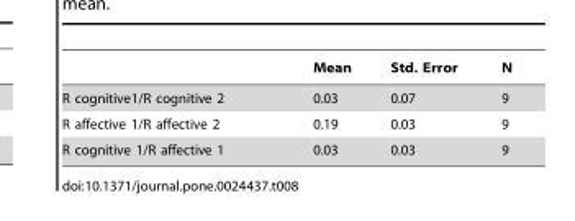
<table><thead><tr><td></td><td>Mean</td><td>Std. Error</td><td>N</td></tr></thead><tbody><tr><td>R cognitive1/R cognitive 2</td><td>0.03</td><td>0.07</td><td>9</td></tr><tr><td>R affective 1/R affective 2</td><td>0.19</td><td>0.03</td><td>9</td></tr><tr><td>R cognitive 1/R affective 1</td><td>0.03</td><td>0.03</td><td>9</td></tr></tbody></table>